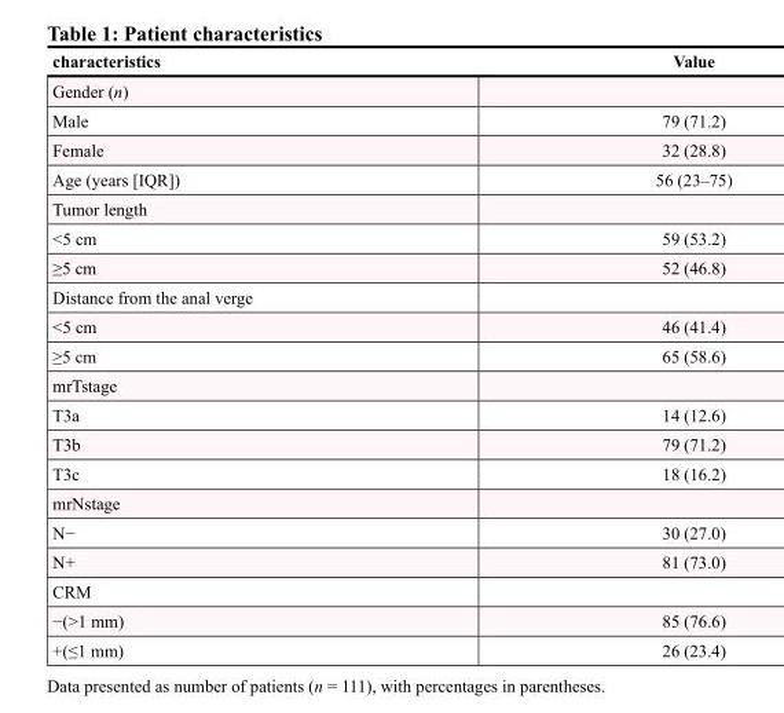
<table><thead><tr><td>characteristics</td><td>Value</td></tr></thead><tbody><tr><td colspan="2">Gender (n)</td></tr><tr><td>Male</td><td>79 (71.2)</td></tr><tr><td>Female</td><td>32 (28.8)</td></tr><tr><td>Age (years [IQR])</td><td>56 (23–75)</td></tr><tr><td colspan="2">Tumor length</td></tr><tr><td>&lt;5 cm</td><td>59 (53.2)</td></tr><tr><td>≥5 cm</td><td>52 (46.8)</td></tr><tr><td colspan="2">Distance from the anal verge</td></tr><tr><td>&lt;5 cm</td><td>46 (41.4)</td></tr><tr><td>≥5 cm</td><td>65 (58.6)</td></tr><tr><td colspan="2">mrTstage</td></tr><tr><td>T3a</td><td>14 (12.6)</td></tr><tr><td>T3b</td><td>79 (71.2)</td></tr><tr><td>T3c</td><td>18 (16.2)</td></tr><tr><td colspan="2">mrNstage</td></tr><tr><td>N−</td><td>30 (27.0)</td></tr><tr><td>N+</td><td>81 (73.0)</td></tr><tr><td colspan="2">CRM</td></tr><tr><td>−(&gt;1 mm)</td><td>85 (76.6)</td></tr><tr><td>+(≤1 mm)</td><td>26 (23.4)</td></tr></tbody></table>